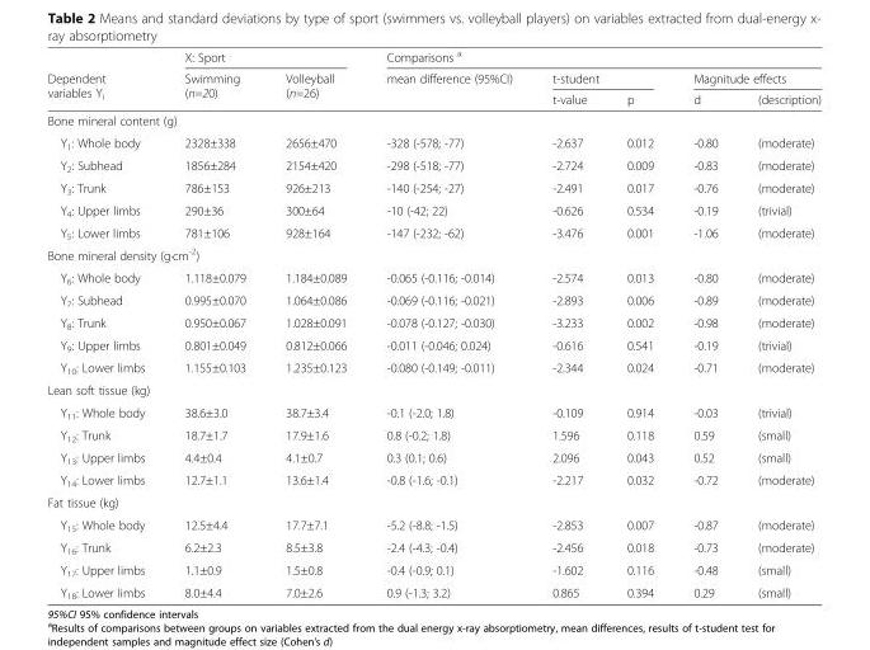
<table><thead><tr><td rowspan="3">Dependent variables Y<sub>i</sub></td><td colspan="2">X: Sport</td><td colspan="5">Comparisons <sup>a</sup></td></tr><tr><td rowspan="2">Swimming (n=20)</td><td rowspan="2">Volleyball (n=26)</td><td rowspan="2">mean difference (95%CI)</td><td colspan="2">t-student</td><td colspan="2">Magnitude effects</td></tr><tr><td>t-value</td><td>p</td><td>d</td><td>(description)</td></tr></thead><tbody><tr><td colspan="8">Bone mineral content (g)</td></tr><tr><td>Y<sub>1</sub>: Whole body</td><td>2328±338</td><td>2656±470</td><td>-328 (-578; -77)</td><td>-2.637</td><td>0.012</td><td>-0.80</td><td>(moderate)</td></tr><tr><td>Y<sub>2</sub>: Subhead</td><td>1856±284</td><td>2154±420</td><td>-298 (-518; -77)</td><td>-2.724</td><td>0.009</td><td>-0.83</td><td>(moderate)</td></tr><tr><td>Y<sub>3</sub>: Trunk</td><td>786±153</td><td>926±213</td><td>-140 (-254; -27)</td><td>-2.491</td><td>0.017</td><td>-0.76</td><td>(moderate)</td></tr><tr><td>Y<sub>4</sub>: Upper limbs</td><td>290±36</td><td>300±64</td><td>-10 (-42; 22)</td><td>-0.626</td><td>0.534</td><td>-0.19</td><td>(trivial)</td></tr><tr><td>Y<sub>5</sub>: Lower limbs</td><td>781±106</td><td>928±164</td><td>-147 (-232; -62)</td><td>-3.476</td><td>0.001</td><td>-1.06</td><td>(moderate)</td></tr><tr><td colspan="8">Bone mineral density (g∙cm<sup>-2</sup>)</td></tr><tr><td>Y<sub>6</sub>: Whole body</td><td>1.118±0.079</td><td>1.184±0.089</td><td>-0.065 (-0.116; -0.014)</td><td>-2.574</td><td>0.013</td><td>-0.80</td><td>(moderate)</td></tr><tr><td>Y<sub>7</sub>: Subhead</td><td>0.995±0.070</td><td>1.064±0.086</td><td>-0.069 (-0.116; -0.021)</td><td>-2.893</td><td>0.006</td><td>-0.89</td><td>(moderate)</td></tr><tr><td>Y<sub>8</sub>: Trunk</td><td>0.950±0.067</td><td>1.028±0.091</td><td>-0.078 (-0.127; -0.030)</td><td>-3.233</td><td>0.002</td><td>-0.98</td><td>(moderate)</td></tr><tr><td>Y<sub>9</sub>: Upper limbs</td><td>0.801±0.049</td><td>0.812±0.066</td><td>-0.011 (-0.046; 0.024)</td><td>-0.616</td><td>0.541</td><td>-0.19</td><td>(trivial)</td></tr><tr><td>Y<sub>10</sub>: Lower limbs</td><td>1.155±0.103</td><td>1.235±0.123</td><td>-0.080 (-0.149; -0.011)</td><td>-2.344</td><td>0.024</td><td>-0.71</td><td>(moderate)</td></tr><tr><td colspan="8">Lean soft tissue (kg)</td></tr><tr><td>Y<sub>11</sub>: Whole body</td><td>38.6±3.0</td><td>38.7±3.4</td><td>-0.1 (-2.0; 1.8)</td><td>-0.109</td><td>0.914</td><td>-0.03</td><td>(trivial)</td></tr><tr><td>Y<sub>12</sub>: Trunk</td><td>18.7±1.7</td><td>17.9±1.6</td><td>0.8 (-0.2; 1.8)</td><td>1.596</td><td>0.118</td><td>0.59</td><td>(small)</td></tr><tr><td>Y<sub>13</sub>: Upper limbs</td><td>4.4±0.4</td><td>4.1±0.7</td><td>0.3 (0.1; 0.6)</td><td>2.096</td><td>0.043</td><td>0.52</td><td>(small)</td></tr><tr><td>Y<sub>14</sub>: Lower limbs</td><td>12.7±1.1</td><td>13.6±1.4</td><td>-0.8 (-1.6; -0.1)</td><td>-2.217</td><td>0.032</td><td>-0.72</td><td>(moderate)</td></tr><tr><td colspan="8">Fat tissue (kg)</td></tr><tr><td>Y<sub>15</sub>: Whole body</td><td>12.5±4.4</td><td>17.7±7.1</td><td>-5.2 (-8.8; -1.5)</td><td>-2.853</td><td>0.007</td><td>-0.87</td><td>(moderate)</td></tr><tr><td>Y<sub>16</sub>: Trunk</td><td>6.2±2.3</td><td>8.5±3.8</td><td>-2.4 (-4.3; -0.4)</td><td>-2.456</td><td>0.018</td><td>-0.73</td><td>(moderate)</td></tr><tr><td>Y<sub>17</sub>: Upper limbs</td><td>1.1±0.9</td><td>1.5±0.8</td><td>-0.4 (-0.9; 0.1)</td><td>-1.602</td><td>0.116</td><td>-0.48</td><td>(small)</td></tr><tr><td>Y<sub>18</sub>: Lower limbs</td><td>8.0±4.4</td><td>7.0±2.6</td><td>0.9 (-1.3; 3.2)</td><td>0.865</td><td>0.394</td><td>0.29</td><td>(small)</td></tr></tbody></table>